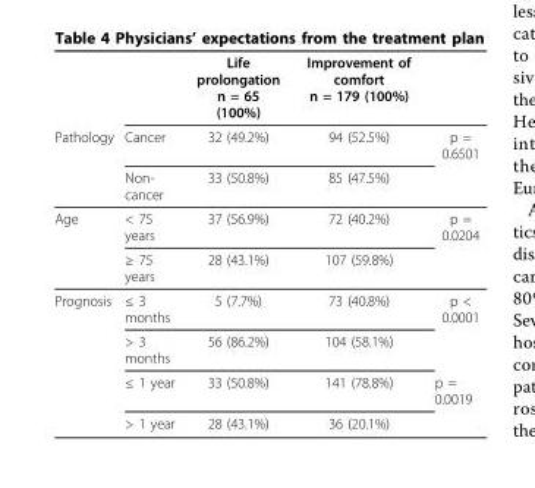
<table><thead><tr><td rowspan="3">Pathology</td><td rowspan="3">Cancer Non- cancer</td><td rowspan="3">Life prolongation n = 65 (100%) 32 (49.2%) 33 (50.8%)</td><td rowspan="3">Improvement of comfort n = 179 (100%) 94 (52.5%) 85 (47.5%)</td><td rowspan="3">p = 0.6501</td></tr><tr></tr><tr></tr></thead><tbody><tr><td rowspan="2">Age</td><td>&lt; 75 years</td><td>37 (56.9%)</td><td>72 (40.2%)</td><td>p = 0.0204</td></tr><tr><td>≥ 75 years</td><td>28 (43.1%)</td><td>107 (59.8%)</td><td></td></tr><tr><td rowspan="4">Prognosis</td><td>≤ 3 months</td><td>5 (7.7%)</td><td>73 (40.8%)</td><td>p &lt; 0.0001</td></tr><tr><td>&gt; 3 months</td><td>56 (86.2%)</td><td>104 (58.1%)</td><td></td></tr><tr><td>≤ 1 year</td><td>33 (50.8%)</td><td>141 (78.8%)</td><td>p = 0.0019</td></tr><tr><td>&gt; 1 year</td><td>28 (43.1%)</td><td>36 (20.1%)</td><td></td></tr></tbody></table>